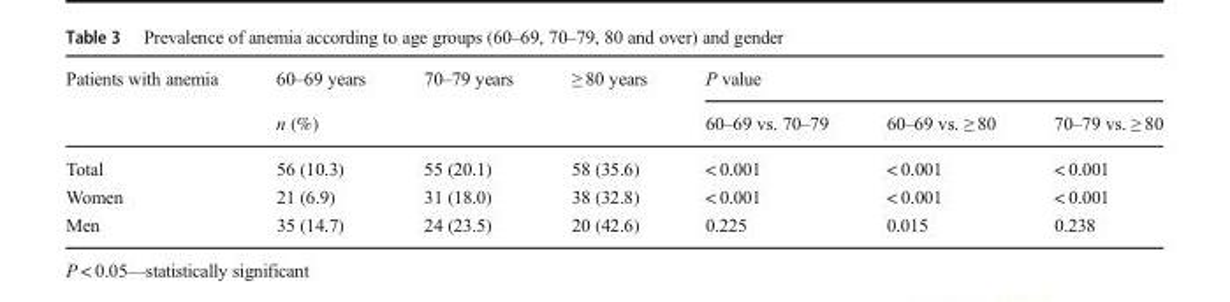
<table><thead><tr><td rowspan="2">Patients with anemia</td><td>60–69 years</td><td>70–79 years</td><td>≥ 80 years</td><td colspan="3">P value</td></tr><tr><td colspan="3">n (%)</td><td>60–69 vs. 70–79</td><td>60–69 vs. ≥ 80</td><td>70–79 vs. ≥ 80</td></tr></thead><tbody><tr><td>Total</td><td>56 (10.3)</td><td>55 (20.1)</td><td>58 (35.6)</td><td>&lt; 0.001</td><td>&lt; 0.001</td><td>&lt; 0.001</td></tr><tr><td>Women</td><td>21 (6.9)</td><td>31 (18.0)</td><td>38 (32.8)</td><td>&lt; 0.001</td><td>&lt; 0.001</td><td>&lt; 0.001</td></tr><tr><td>Men</td><td>35 (14.7)</td><td>24 (23.5)</td><td>20 (42.6)</td><td>0.225</td><td>0.015</td><td>0.238</td></tr></tbody></table>